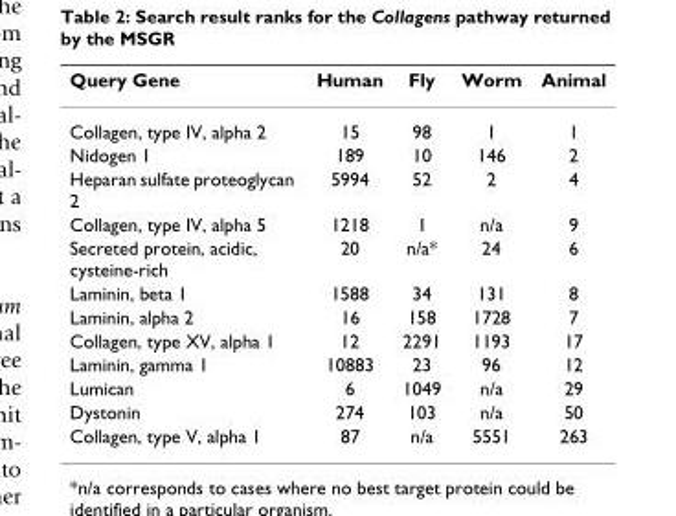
<table><thead><tr><td>Query Gene</td><td>Human</td><td>Fly</td><td>Worm</td><td>Animal</td></tr></thead><tbody><tr><td>Collagen, type IV, alpha 2</td><td>15</td><td>98</td><td>1</td><td>1</td></tr><tr><td>Nidogen 1</td><td>189</td><td>10</td><td>146</td><td>2</td></tr><tr><td>Heparan sulfate proteoglycan 2</td><td>5994</td><td>52</td><td>2</td><td>4</td></tr><tr><td>Collagen, type IV, alpha 5</td><td>1218</td><td>1</td><td>n/a</td><td>9</td></tr><tr><td>Secreted protein, acidic, cysteine-rich</td><td>20</td><td>n/a*</td><td>24</td><td>6</td></tr><tr><td>Laminin, beta 1</td><td>1588</td><td>34</td><td>131</td><td>8</td></tr><tr><td>Laminin, alpha 2</td><td>16</td><td>158</td><td>1728</td><td>7</td></tr><tr><td>Collagen, type XV, alpha 1</td><td>12</td><td>2291</td><td>1193</td><td>17</td></tr><tr><td>Laminin, gamma 1</td><td>10883</td><td>23</td><td>96</td><td>12</td></tr><tr><td>Lumican</td><td>6</td><td>1049</td><td>n/a</td><td>29</td></tr><tr><td>Dystonin</td><td>274</td><td>103</td><td>n/a</td><td>50</td></tr><tr><td>Collagen, type V, alpha 1</td><td>87</td><td>n/a</td><td>5551</td><td>263</td></tr></tbody></table>